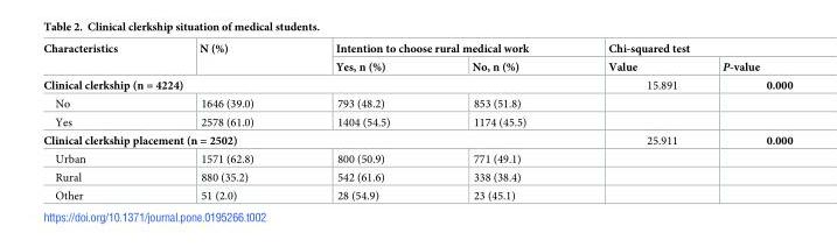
<table><thead><tr><td rowspan="2">Characteristics</td><td rowspan="2">N (%)</td><td colspan="2">Intention to choose rural medical work</td><td colspan="2">Chi-squared test</td></tr><tr><td>Yes, n (%)</td><td>No, n (%)</td><td>Value</td><td>P-value</td></tr></thead><tbody><tr><td colspan="4">Clinical clerkship (n = 4224)</td><td>15.891</td><td>0.000</td></tr><tr><td>No</td><td>1646 (39.0)</td><td>793 (48.2)</td><td>853 (51.8)</td><td></td><td></td></tr><tr><td>Yes</td><td>2578 (61.0)</td><td>1404 (54.5)</td><td>1174 (45.5)</td><td></td><td></td></tr><tr><td colspan="4">Clinical clerkship placement (n = 2502)</td><td>25.911</td><td>0.000</td></tr><tr><td>Urban</td><td>1571 (62.8)</td><td>800 (50.9)</td><td>771 (49.1)</td><td></td><td></td></tr><tr><td>Rural</td><td>880 (35.2)</td><td>542 (61.6)</td><td>338 (38.4)</td><td></td><td></td></tr><tr><td>Other</td><td>51 (2.0)</td><td>28 (54.9)</td><td>23 (45.1)</td><td></td><td></td></tr></tbody></table>